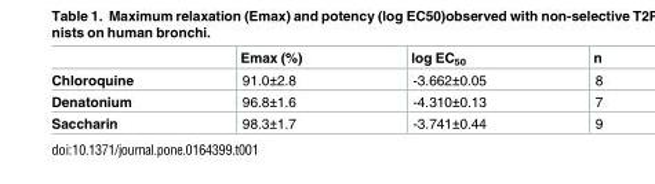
<table><thead><tr><td></td><td>Emax (%)</td><td>log EC<sub>50</sub></td><td>n</td></tr></thead><tbody><tr><td>Chloroquine</td><td>91.0±2.8</td><td>-3.662±0.05</td><td>8</td></tr><tr><td>Denatonium</td><td>96.8±1.6</td><td>-4.310±0.13</td><td>7</td></tr><tr><td>Saccharin</td><td>98.3±1.7</td><td>-3.741±0.44</td><td>9</td></tr></tbody></table>